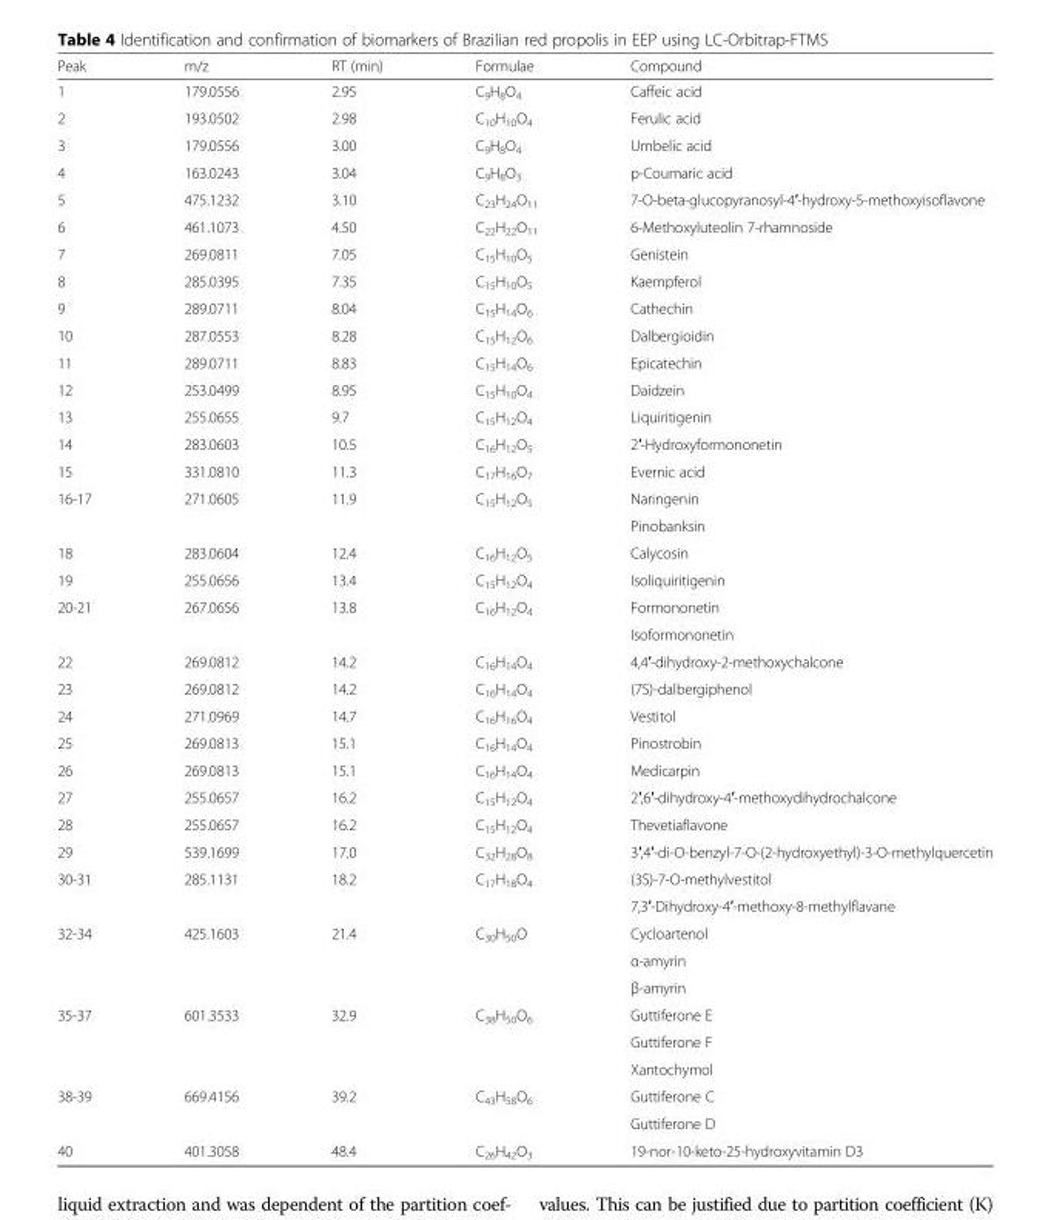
<table><thead><tr><td>Peak</td><td>m/z</td><td>RT (min)</td><td>Formulae</td><td>Compound</td></tr></thead><tbody><tr><td>1</td><td>179.0556</td><td>2.95</td><td>C<sub>9</sub>H<sub>8</sub>O<sub>4</sub></td><td>Caffeic acid</td></tr><tr><td>2</td><td>193.0502</td><td>2.98</td><td>C<sub>10</sub>H<sub>10</sub>O<sub>4</sub></td><td>Ferulic acid</td></tr><tr><td>3</td><td>179.0556</td><td>3.00</td><td>C<sub>9</sub>H<sub>8</sub>O<sub>4</sub></td><td>Umbelic acid</td></tr><tr><td>4</td><td>163.0243</td><td>3.04</td><td>C<sub>9</sub>H<sub>8</sub>O<sub>3</sub></td><td>p-Coumaric acid</td></tr><tr><td>5</td><td>475.1232</td><td>3.10</td><td>C<sub>23</sub>H<sub>24</sub>O<sub>11</sub></td><td>7-O-beta-glucopyranosyl-4′-hydroxy-5-methoxyisoflavone</td></tr><tr><td>6</td><td>461.1073</td><td>4.50</td><td>C<sub>22</sub>H<sub>22</sub>O<sub>11</sub></td><td>6-Methoxyluteolin 7-rhamnoside</td></tr><tr><td>7</td><td>269.0811</td><td>7.05</td><td>C<sub>15</sub>H<sub>10</sub>O<sub>5</sub></td><td>Genistein</td></tr><tr><td>8</td><td>285.0395</td><td>7.35</td><td>C<sub>15</sub>H<sub>10</sub>O<sub>5</sub></td><td>Kaempferol</td></tr><tr><td>9</td><td>289.0711</td><td>8.04</td><td>C<sub>15</sub>H<sub>14</sub>O<sub>6</sub></td><td>Cathechin</td></tr><tr><td>10</td><td>287.0553</td><td>8.28</td><td>C<sub>15</sub>H<sub>12</sub>O<sub>6</sub></td><td>Dalbergioidin</td></tr><tr><td>11</td><td>289.0711</td><td>8.83</td><td>C<sub>15</sub>H<sub>14</sub>O<sub>6</sub></td><td>Epicatechin</td></tr><tr><td>12</td><td>253.0499</td><td>8.95</td><td>C<sub>15</sub>H<sub>10</sub>O<sub>4</sub></td><td>Daidzein</td></tr><tr><td>13</td><td>255.0655</td><td>9.7</td><td>C<sub>15</sub>H<sub>12</sub>O<sub>4</sub></td><td>Liquiritigenin</td></tr><tr><td>14</td><td>283.0603</td><td>10.5</td><td>C<sub>16</sub>H<sub>12</sub>O<sub>5</sub></td><td>2′-Hydroxyformononetin</td></tr><tr><td>15</td><td>331.0810</td><td>11.3</td><td>C<sub>17</sub>H<sub>16</sub>O<sub>7</sub></td><td>Evernic acid</td></tr><tr><td rowspan="2">16-17</td><td rowspan="2">271.0605</td><td rowspan="2">11.9</td><td rowspan="2">C<sub>15</sub>H<sub>12</sub>O<sub>5</sub></td><td>Naringenin</td></tr><tr><td>Pinobanksin</td></tr><tr><td>18</td><td>283.0604</td><td>12.4</td><td>C<sub>16</sub>H<sub>12</sub>O<sub>5</sub></td><td>Calycosin</td></tr><tr><td>19</td><td>255.0656</td><td>13.4</td><td>C<sub>15</sub>H<sub>12</sub>O<sub>4</sub></td><td>Isoliquiritigenin</td></tr><tr><td rowspan="2">20-21</td><td rowspan="2">267.0656</td><td rowspan="2">13.8</td><td rowspan="2">C<sub>16</sub>H<sub>12</sub>O<sub>4</sub></td><td>Formononetin</td></tr><tr><td>Isoformononetin</td></tr><tr><td>22</td><td>269.0812</td><td>14.2</td><td>C<sub>16</sub>H<sub>14</sub>O<sub>4</sub></td><td>4,4′-dihydroxy-2-methoxychalcone</td></tr><tr><td>23</td><td>269.0812</td><td>14.2</td><td>C<sub>16</sub>H<sub>14</sub>O<sub>4</sub></td><td>(7S)-dalbergiphenol</td></tr><tr><td>24</td><td>271.0969</td><td>14.7</td><td>C<sub>16</sub>H<sub>16</sub>O<sub>4</sub></td><td>Vestitol</td></tr><tr><td>25</td><td>269.0813</td><td>15.1</td><td>C<sub>16</sub>H<sub>14</sub>O<sub>4</sub></td><td>Pinostrobin</td></tr><tr><td>26</td><td>269.0813</td><td>15.1</td><td>C<sub>16</sub>H<sub>14</sub>O<sub>4</sub></td><td>Medicarpin</td></tr><tr><td>27</td><td>255.0657</td><td>16.2</td><td>C<sub>15</sub>H<sub>12</sub>O<sub>4</sub></td><td>2′,6′-dihydroxy-4′-methoxydihydrochalcone</td></tr><tr><td>28</td><td>255.0657</td><td>16.2</td><td>C<sub>15</sub>H<sub>12</sub>O<sub>4</sub></td><td>Thevetiaflavone</td></tr><tr><td>29</td><td>539.1699</td><td>17.0</td><td>C<sub>32</sub>H<sub>28</sub>O<sub>8</sub></td><td>3′,4′-di-O-benzyl-7-O-(2-hydroxyethyl)-3-O-methylquercetin</td></tr><tr><td rowspan="2">30-31</td><td rowspan="2">285.1131</td><td rowspan="2">18.2</td><td rowspan="2">C<sub>17</sub>H<sub>18</sub>O<sub>4</sub></td><td>(3S)-7-O-methylvestitol</td></tr><tr><td>7,3′-Dihydroxy-4′-methoxy-8-methylflavane</td></tr><tr><td rowspan="3">32-34</td><td rowspan="3">425.1603</td><td rowspan="3">21.4</td><td rowspan="3">C<sub>30</sub>H<sub>50</sub>O</td><td>Cycloartenol</td></tr><tr><td>α-amyrin</td></tr><tr><td>β-amyrin</td></tr><tr><td rowspan="3">35-37</td><td rowspan="3">601.3533</td><td rowspan="3">32.9</td><td rowspan="3">C<sub>38</sub>H<sub>50</sub>O<sub>6</sub></td><td>Guttiferone E</td></tr><tr><td>Guttiferone F</td></tr><tr><td>Xantochymol</td></tr><tr><td rowspan="2">38-39</td><td rowspan="2">669.4156</td><td rowspan="2">39.2</td><td rowspan="2">C<sub>43</sub>H<sub>58</sub>O<sub>6</sub></td><td>Guttiferone C</td></tr><tr><td>Guttiferone D</td></tr><tr><td>40</td><td>401.3058</td><td>48.4</td><td>C<sub>26</sub>H<sub>42</sub>O<sub>3</sub></td><td>19-nor-10-keto-25-hydroxyvitamin D3</td></tr></tbody></table>